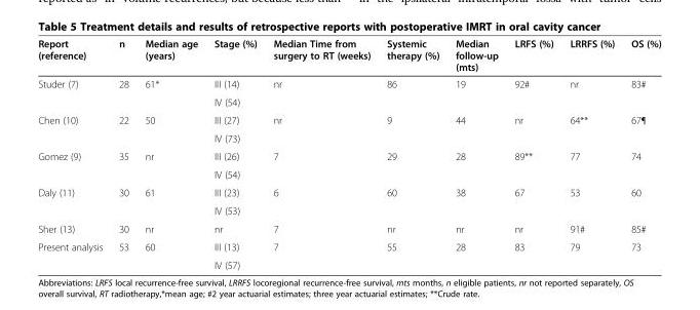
<table><thead><tr><td>Report (reference)</td><td>n</td><td>Median age (years)</td><td>Stage (%)</td><td>Median Time from surgery to RT (weeks)</td><td>Systemic therapy (%)</td><td>Median follow-up (mts)</td><td>LRFS (%)</td><td>LRRFS (%)</td><td>OS (%)</td></tr></thead><tbody><tr><td rowspan="2">Studer (7)</td><td rowspan="2">28</td><td rowspan="2">61*</td><td>III (14)</td><td rowspan="2">nr</td><td rowspan="2">86</td><td rowspan="2">19</td><td rowspan="2">92#</td><td rowspan="2">nr</td><td rowspan="2">83#</td></tr><tr><td>IV (54)</td></tr><tr><td rowspan="2">Chen (10)</td><td rowspan="2">22</td><td rowspan="2">50</td><td>III (27)</td><td rowspan="2">nr</td><td rowspan="2">9</td><td rowspan="2">44</td><td rowspan="2">nr</td><td rowspan="2">64**</td><td rowspan="2">67¶</td></tr><tr><td>IV (73)</td></tr><tr><td rowspan="2">Gomez (9)</td><td rowspan="2">35</td><td rowspan="2">nr</td><td>III (26)</td><td rowspan="2">7</td><td rowspan="2">29</td><td rowspan="2">28</td><td rowspan="2">89**</td><td rowspan="2">77</td><td rowspan="2">74</td></tr><tr><td>IV (54)</td></tr><tr><td rowspan="2">Daly (11)</td><td rowspan="2">30</td><td rowspan="2">61</td><td>III (23)</td><td rowspan="2">6</td><td rowspan="2">60</td><td rowspan="2">38</td><td rowspan="2">67</td><td rowspan="2">53</td><td rowspan="2">60</td></tr><tr><td>IV (53)</td></tr><tr><td>Sher (13)</td><td>30</td><td>nr</td><td>nr</td><td>7</td><td>nr</td><td>nr</td><td>nr</td><td>91#</td><td>85#</td></tr><tr><td rowspan="2">Present analysis</td><td>53</td><td>60</td><td>III (13)</td><td>7</td><td>55</td><td>28</td><td>83</td><td>79</td><td>73</td></tr><tr><td></td><td></td><td>IV (57)</td><td></td><td></td><td></td><td></td><td></td><td></td></tr></tbody></table>